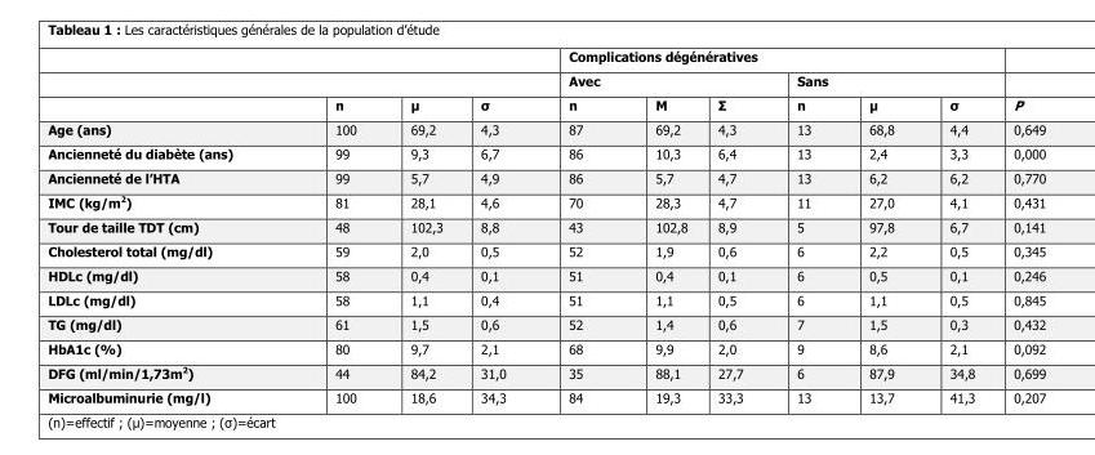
<table><thead><tr><td rowspan="3"></td><td rowspan="3">n</td><td rowspan="3">μ</td><td rowspan="3">σ</td><td colspan="6">Complications dégénératives</td><td rowspan="3">P</td></tr><tr><td colspan="3">Avec</td><td colspan="3">Sans</td></tr><tr><td>n</td><td>Μ</td><td>Σ</td><td>n</td><td>μ</td><td>σ</td></tr></thead><tbody><tr><td>Age (ans)</td><td>100</td><td>69,2</td><td>4,3</td><td>87</td><td>69,2</td><td>4,3</td><td>13</td><td>68,8</td><td>4,4</td><td>0,649</td></tr><tr><td>Ancienneté du diabète (ans)</td><td>99</td><td>9,3</td><td>6,7</td><td>86</td><td>10,3</td><td>6,4</td><td>13</td><td>2,4</td><td>3,3</td><td>0,000</td></tr><tr><td>Ancienneté de l’HTA</td><td>99</td><td>5,7</td><td>4,9</td><td>86</td><td>5,7</td><td>4,7</td><td>13</td><td>6,2</td><td>6,2</td><td>0,770</td></tr><tr><td>IMC (kg/m<sup>2</sup>)</td><td>81</td><td>28,1</td><td>4,6</td><td>70</td><td>28,3</td><td>4,7</td><td>11</td><td>27,0</td><td>4,1</td><td>0,431</td></tr><tr><td>Tour de taille TDT (cm)</td><td>48</td><td>102,3</td><td>8,8</td><td>43</td><td>102,8</td><td>8,9</td><td>5</td><td>97,8</td><td>6,7</td><td>0,141</td></tr><tr><td>Cholesterol total (mg/dl)</td><td>59</td><td>2,0</td><td>0,5</td><td>52</td><td>1,9</td><td>0,6</td><td>6</td><td>2,2</td><td>0,5</td><td>0,345</td></tr><tr><td>HDLc (mg/dl)</td><td>58</td><td>0,4</td><td>0,1</td><td>51</td><td>0,4</td><td>0,1</td><td>6</td><td>0,5</td><td>0,1</td><td>0,246</td></tr><tr><td>LDLc (mg/dl)</td><td>58</td><td>1,1</td><td>0,4</td><td>51</td><td>1,1</td><td>0,5</td><td>6</td><td>1,1</td><td>0,5</td><td>0,845</td></tr><tr><td>TG (mg/dl)</td><td>61</td><td>1,5</td><td>0,6</td><td>52</td><td>1,4</td><td>0,6</td><td>7</td><td>1,5</td><td>0,3</td><td>0,432</td></tr><tr><td>HbA1c (%)</td><td>80</td><td>9,7</td><td>2,1</td><td>68</td><td>9,9</td><td>2,0</td><td>9</td><td>8,6</td><td>2,1</td><td>0,092</td></tr><tr><td>DFG (ml/min/1,73m<sup>2</sup>)</td><td>44</td><td>84,2</td><td>31,0</td><td>35</td><td>88,1</td><td>27,7</td><td>6</td><td>87,9</td><td>34,8</td><td>0,699</td></tr><tr><td>Microalbuminurie (mg/l)</td><td>100</td><td>18,6</td><td>34,3</td><td>84</td><td>19,3</td><td>33,3</td><td>13</td><td>13,7</td><td>41,3</td><td>0,207</td></tr></tbody></table>